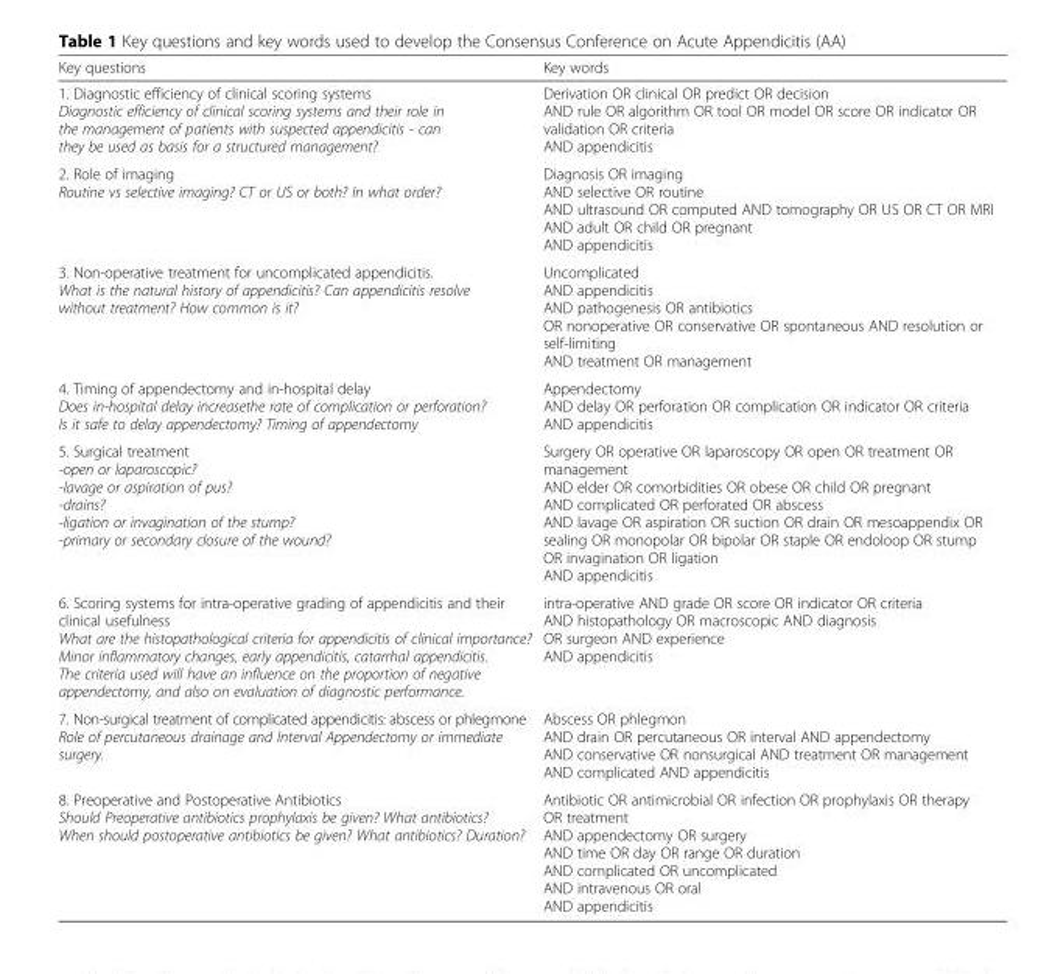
<table><thead><tr><td>Key questions</td><td>Key words</td></tr></thead><tbody><tr><td>1. Diagnostic efficiency of clinical scoring systems Diagnostic efficiency of clinical scoring systems and their role in the management of patients with suspected appendicitis - can they be used as basis for a structured management?</td><td>Derivation OR clinical OR predict OR decision AND rule OR algorithm OR tool OR model OR score OR indicator OR validation OR criteria AND appendicitis</td></tr><tr><td>2. Role of imaging Routine vs selective imaging? CT or US or both? In what order?</td><td>Diagnosis OR imaging AND selective OR routine AND ultrasound OR computed AND tomography OR US OR CT OR MRI AND adult OR child OR pregnant AND appendicitis</td></tr><tr><td>3. Non-operative treatment for uncomplicated appendicitis. What is the natural history of appendicitis? Can appendicitis resolve without treatment? How common is it?</td><td>Uncomplicated AND appendicitis AND pathogenesis OR antibiotics OR nonoperative OR conservative OR spontaneous AND resolution or self-limiting AND treatment OR management</td></tr><tr><td>4. Timing of appendectomy and in-hospital delay Does in-hospital delay increasethe rate of complication or perforation? Is it safe to delay appendectomy? Timing of appendectomy</td><td>Appendectomy AND delay OR perforation OR complication OR indicator OR criteria AND appendicitis</td></tr><tr><td>5. Surgical treatment -open or laparoscopic? -lavage or aspiration of pus? -drains? -ligation or invagination of the stump? -primary or secondary closure of the wound?</td><td>Surgery OR operative OR laparoscopy OR open OR treatment OR management AND elder OR comorbidities OR obese OR child OR pregnant AND complicated OR perforated OR abscess AND lavage OR aspiration OR suction OR drain OR mesoappendix OR sealing OR monopolar OR bipolar OR staple OR endoloop OR stump OR invagination OR ligation AND appendicitis</td></tr><tr><td>6. Scoring systems for intra-operative grading of appendicitis and their clinical usefulness What are the histopathological criteria for appendicitis of clinical importance? Minor inflammatory changes, early appendicitis, catarrhal appendicitis. The criteria used will have an influence on the proportion of negative appendectomy, and also on evaluation of diagnostic performance.</td><td>intra-operative AND grade OR score OR indicator OR criteria AND histopathology OR macroscopic AND diagnosis OR surgeon AND experience AND appendicitis</td></tr><tr><td>7. Non-surgical treatment of complicated appendicitis: abscess or phlegmone Role of percutaneous drainage and Interval Appendectomy or immediate surgery.</td><td>Abscess OR phlegmon AND drain OR percutaneous OR interval AND appendectomy AND conservative OR nonsurgical AND treatment OR management AND complicated AND appendicitis</td></tr><tr><td>8. Preoperative and Postoperative Antibiotics Should Preoperative antibiotics prophylaxis be given? What antibiotics? When should postoperative antibiotics be given? What antibiotics? Duration?</td><td>Antibiotic OR antimicrobial OR infection OR prophylaxis OR therapy OR treatment AND appendectomy OR surgery AND time OR day OR range OR duration AND complicated OR uncomplicated AND intravenous OR oral AND appendicitis</td></tr></tbody></table>